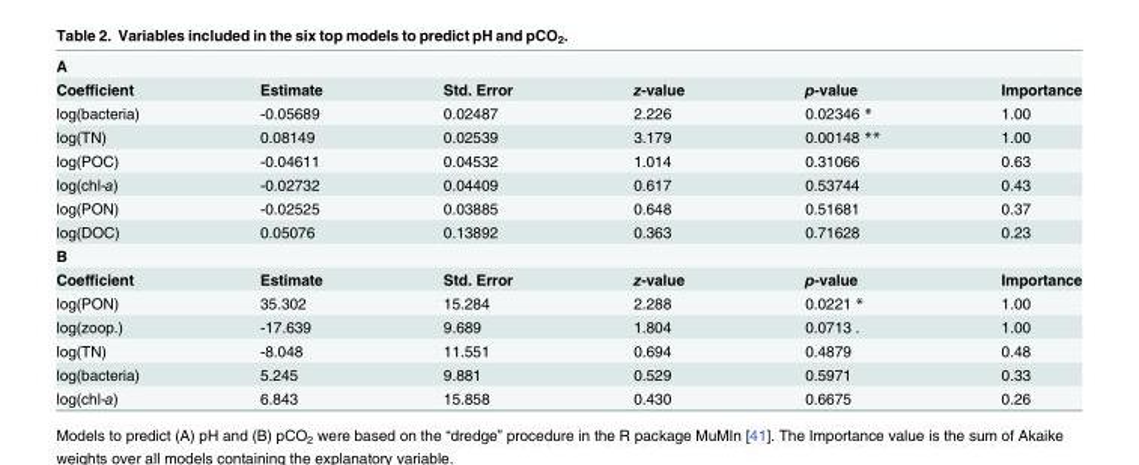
<table><tbody><tr><td colspan="6">A</td></tr><tr><td>Coefficient</td><td>Estimate</td><td>Std. Error</td><td>z-value</td><td>p-value</td><td>Importance</td></tr><tr><td>log(bacteria)</td><td>-0.05689</td><td>0.02487</td><td>2.226</td><td>0.02346 *</td><td>1.00</td></tr><tr><td>log(TN)</td><td>0.08149</td><td>0.02539</td><td>3.179</td><td>0.00148 **</td><td>1.00</td></tr><tr><td>log(POC)</td><td>-0.04611</td><td>0.04532</td><td>1.014</td><td>0.31066</td><td>0.63</td></tr><tr><td>log(chl-a)</td><td>-0.02732</td><td>0.04409</td><td>0.617</td><td>0.53744</td><td>0.43</td></tr><tr><td>log(PON)</td><td>-0.02525</td><td>0.03885</td><td>0.648</td><td>0.51681</td><td>0.37</td></tr><tr><td>log(DOC)</td><td>0.05076</td><td>0.13892</td><td>0.363</td><td>0.71628</td><td>0.23</td></tr><tr><td colspan="6">B</td></tr><tr><td>Coefficient</td><td>Estimate</td><td>Std. Error</td><td>z-value</td><td>p-value</td><td>Importance</td></tr><tr><td>log(PON)</td><td>35.302</td><td>15.284</td><td>2.288</td><td>0.0221 *</td><td>1.00</td></tr><tr><td>log(zoop.)</td><td>-17.639</td><td>9.689</td><td>1.804</td><td>0.0713 .</td><td>1.00</td></tr><tr><td>log(TN)</td><td>-8.048</td><td>11.551</td><td>0.694</td><td>0.4879</td><td>0.48</td></tr><tr><td>log(bacteria)</td><td>5.245</td><td>9.881</td><td>0.529</td><td>0.5971</td><td>0.33</td></tr><tr><td>log(chl-a)</td><td>6.843</td><td>15.858</td><td>0.430</td><td>0.6675</td><td>0.26</td></tr></tbody></table>